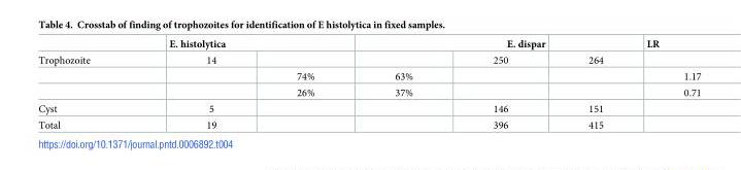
<table><thead><tr><td rowspan="2">Trophozoite</td><td colspan="2">E. histolytica</td><td colspan="2">E. dispar</td><td rowspan="2">264</td><td rowspan="2">LR</td></tr><tr><td>14</td><td></td><td></td><td>250</td></tr></thead><tbody><tr><td></td><td></td><td>74%</td><td>63%</td><td></td><td></td><td>1.17</td></tr><tr><td></td><td></td><td>26%</td><td>37%</td><td></td><td></td><td>0.71</td></tr><tr><td>Cyst</td><td>5</td><td></td><td></td><td>146</td><td>151</td><td></td></tr><tr><td>Total</td><td>19</td><td></td><td></td><td>396</td><td>415</td><td></td></tr></tbody></table>